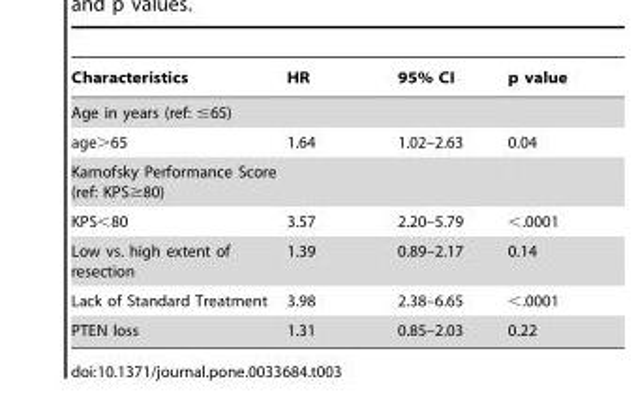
<table><thead><tr><td>Characteristics</td><td>HR</td><td>95% CI</td><td>p value</td></tr></thead><tbody><tr><td colspan="4">Age in years (ref: ≤65)</td></tr><tr><td>age&gt;65</td><td>1.64</td><td>1.02–2.63</td><td>0.04</td></tr><tr><td colspan="4">Karnofsky Performance Score (ref: KPS≥80)</td></tr><tr><td>KPS&lt;80</td><td>3.57</td><td>2.20–5.79</td><td>&lt;.0001</td></tr><tr><td>Low vs. high extent of resection</td><td>1.39</td><td>0.89–2.17</td><td>0.14</td></tr><tr><td>Lack of Standard Treatment</td><td>3.98</td><td>2.38–6.65</td><td>&lt;.0001</td></tr><tr><td>PTEN loss</td><td>1.31</td><td>0.85–2.03</td><td>0.22</td></tr></tbody></table>